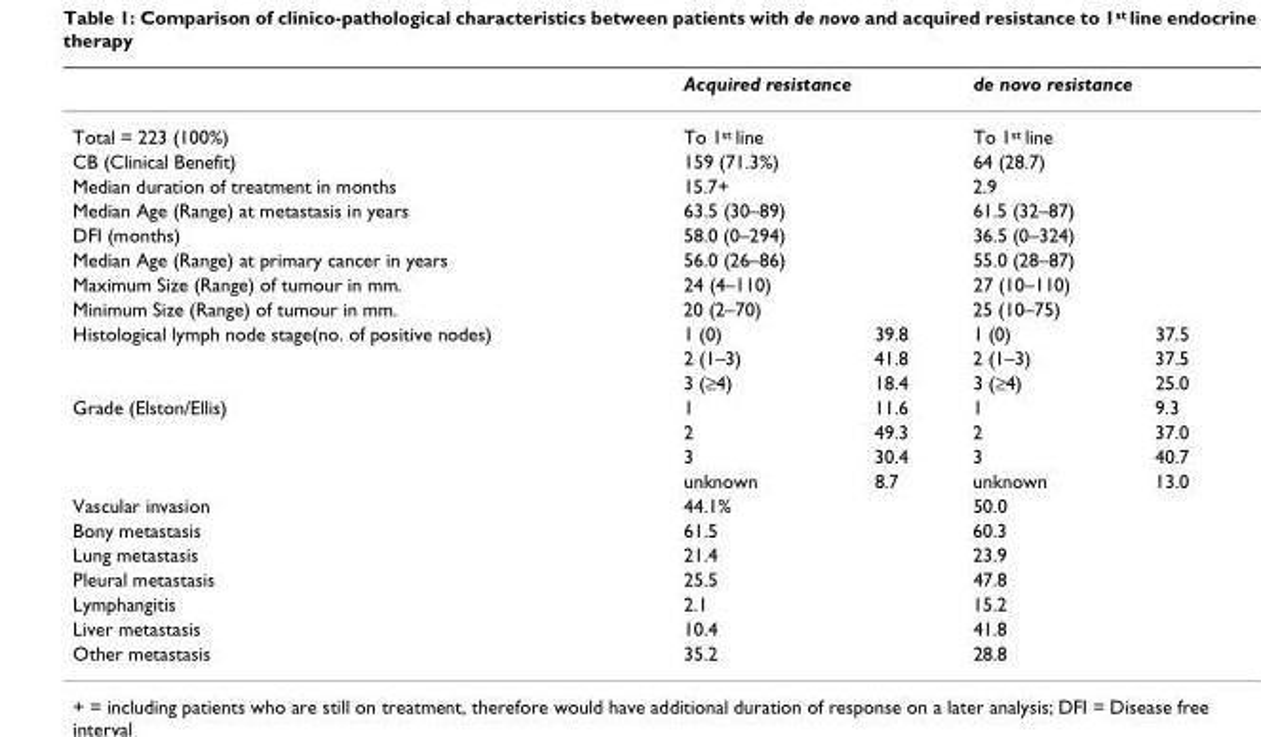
<table><thead><tr><td></td><td colspan="2">Acquired resistance</td><td colspan="2">de novo resistance</td></tr></thead><tbody><tr><td>Total = 223 (100%)</td><td colspan="2">To 1<sup>st</sup> line</td><td colspan="2">To 1<sup>st</sup> line</td></tr><tr><td>CB (Clinical Benefit)</td><td colspan="2">159 (71.3%)</td><td colspan="2">64 (28.7)</td></tr><tr><td>Median duration of treatment in months</td><td colspan="2">15.7+</td><td colspan="2">2.9</td></tr><tr><td>Median Age (Range) at metastasis in years</td><td colspan="2">63.5 (30–89)</td><td colspan="2">61.5 (32–87)</td></tr><tr><td>DFI (months)</td><td colspan="2">58.0 (0–294)</td><td colspan="2">36.5 (0–324)</td></tr><tr><td>Median Age (Range) at primary cancer in years</td><td colspan="2">56.0 (26–86)</td><td colspan="2">55.0 (28–87)</td></tr><tr><td>Maximum Size (Range) of tumour in mm.</td><td colspan="2">24 (4–110)</td><td colspan="2">27 (10–110)</td></tr><tr><td>Minimum Size (Range) of tumour in mm.</td><td colspan="2">20 (2–70)</td><td colspan="2">25 (10–75)</td></tr><tr><td rowspan="3">Histological lymph node stage(no. of positive nodes)</td><td>1 (0)</td><td>39.8</td><td>1 (0)</td><td>37.5</td></tr><tr><td>2 (1–3)</td><td>41.8</td><td>2 (1–3)</td><td>37.5</td></tr><tr><td>3 (≥4)</td><td>18.4</td><td>3 (≥4)</td><td>25.0</td></tr><tr><td rowspan="4">Grade (Elston/Ellis)</td><td>1</td><td>11.6</td><td>1</td><td>9.3</td></tr><tr><td>2</td><td>49.3</td><td>2</td><td>37.0</td></tr><tr><td>3</td><td>30.4</td><td>3</td><td>40.7</td></tr><tr><td>unknown</td><td>8.7</td><td>unknown</td><td>13.0</td></tr><tr><td>Vascular invasion</td><td colspan="2">44.1%</td><td colspan="2">50.0</td></tr><tr><td>Bony metastasis</td><td colspan="2">61.5</td><td colspan="2">60.3</td></tr><tr><td>Lung metastasis</td><td colspan="2">21.4</td><td colspan="2">23.9</td></tr><tr><td>Pleural metastasis</td><td colspan="2">25.5</td><td colspan="2">47.8</td></tr><tr><td>Lymphangitis</td><td colspan="2">2.1</td><td colspan="2">15.2</td></tr><tr><td>Liver metastasis</td><td colspan="2">10.4</td><td colspan="2">41.8</td></tr><tr><td>Other metastasis</td><td colspan="2">35.2</td><td colspan="2">28.8</td></tr></tbody></table>